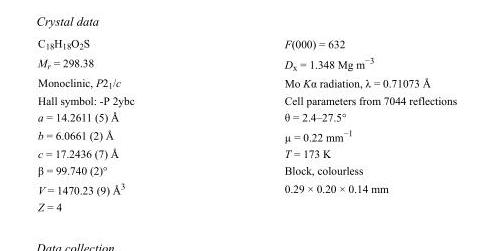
<table><tbody><tr><td>C<sub>18</sub>H<sub>18</sub>O<sub>2</sub>S</td><td>F(000) = 632</td></tr><tr><td>M<sub>r</sub> = 298.38</td><td>D<sub>x</sub> = 1.348 Mg m<sup>−3</sup></td></tr><tr><td>Monoclinic, P2<sub>1</sub>/c</td><td>Mo Kα radiation, λ = 0.71073 Å</td></tr><tr><td>Hall symbol: -P 2ybc</td><td>Cell parameters from 7044 reflections</td></tr><tr><td>a = 14.2611 (5) Å</td><td>θ = 2.4–27.5°</td></tr><tr><td>b = 6.0661 (2) Å</td><td>µ = 0.22 mm<sup>−1</sup></td></tr><tr><td>c = 17.2436 (7) Å</td><td>T = 173 K</td></tr><tr><td>β = 99.740 (2)°</td><td>Block, colourless</td></tr><tr><td>V = 1470.23 (9) Å<sup>3</sup></td><td>0.29 × 0.20 × 0.14 mm</td></tr><tr><td>Z = 4</td><td></td></tr></tbody></table>